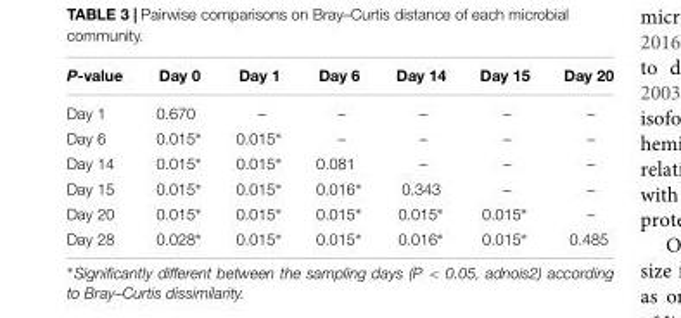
<table><thead><tr><td>P-value</td><td>Day 0</td><td>Day 1</td><td>Day 6</td><td>Day 14</td><td>Day 15</td><td>Day 20</td></tr></thead><tbody><tr><td>Day 1</td><td>0.670</td><td>–</td><td>–</td><td>–</td><td>–</td><td>–</td></tr><tr><td>Day 6</td><td>0.015∗</td><td>0.015∗</td><td>–</td><td>–</td><td>–</td><td>–</td></tr><tr><td>Day 14</td><td>0.015∗</td><td>0.015∗</td><td>0.081</td><td>–</td><td>–</td><td>–</td></tr><tr><td>Day 15</td><td>0.015∗</td><td>0.015∗</td><td>0.016∗</td><td>0.343</td><td>–</td><td>–</td></tr><tr><td>Day 20</td><td>0.015∗</td><td>0.015∗</td><td>0.015∗</td><td>0.015∗</td><td>0.015∗</td><td>–</td></tr><tr><td>Day 28</td><td>0.028∗</td><td>0.015∗</td><td>0.015∗</td><td>0.016∗</td><td>0.015∗</td><td>0.485</td></tr></tbody></table>